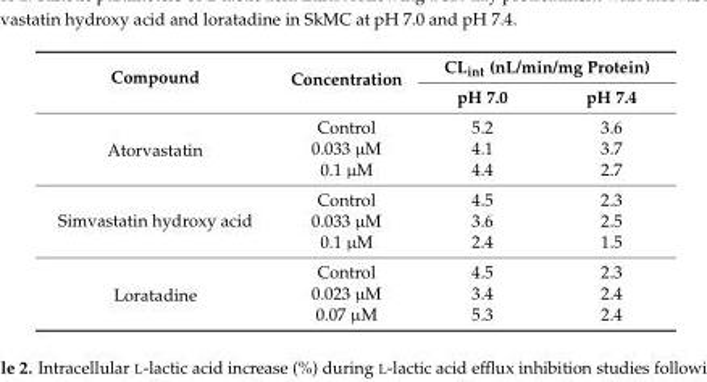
<table><thead><tr><td rowspan="2">Compound</td><td rowspan="2">Concentration</td><td colspan="2">CL<sub>int</sub> (nL/min/mg Protein)</td></tr><tr><td>pH 7.0</td><td>pH 7.4</td></tr></thead><tbody><tr><td rowspan="3">Atorvastatin</td><td>Control</td><td>5.2</td><td>3.6</td></tr><tr><td>0.033 µM</td><td>4.1</td><td>3.7</td></tr><tr><td>0.1 µM</td><td>4.4</td><td>2.7</td></tr><tr><td rowspan="3">Simvastatin hydroxy acid</td><td>Control</td><td>4.5</td><td>2.3</td></tr><tr><td>0.033 µM</td><td>3.6</td><td>2.5</td></tr><tr><td>0.1 µM</td><td>2.4</td><td>1.5</td></tr><tr><td rowspan="3">Loratadine</td><td>Control</td><td>4.5</td><td>2.3</td></tr><tr><td>0.023 µM</td><td>3.4</td><td>2.4</td></tr><tr><td>0.07 µM</td><td>5.3</td><td>2.4</td></tr></tbody></table>